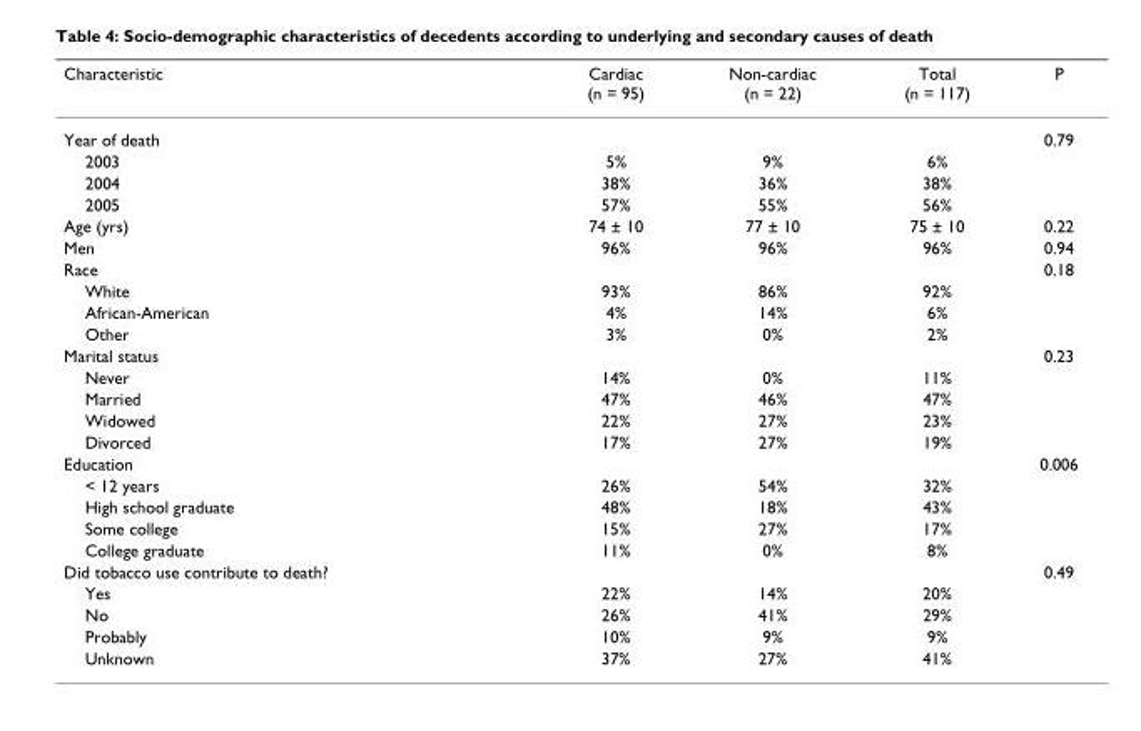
<table><thead><tr><td>Characteristic</td><td>Cardiac (n = 95)</td><td>Non-cardiac (n = 22)</td><td>Total (n = 117)</td><td>P</td></tr></thead><tbody><tr><td>Year of death</td><td></td><td></td><td></td><td>0.79</td></tr><tr><td>2003</td><td>5%</td><td>9%</td><td>6%</td><td></td></tr><tr><td>2004</td><td>38%</td><td>36%</td><td>38%</td><td></td></tr><tr><td>2005</td><td>57%</td><td>55%</td><td>56%</td><td></td></tr><tr><td>Age (yrs)</td><td>74 ± 10</td><td>77 ± 10</td><td>75 ± 10</td><td>0.22</td></tr><tr><td>Men</td><td>96%</td><td>96%</td><td>96%</td><td>0.94</td></tr><tr><td>Race</td><td></td><td></td><td></td><td>0.18</td></tr><tr><td>White</td><td>93%</td><td>86%</td><td>92%</td><td></td></tr><tr><td>African-American</td><td>4%</td><td>14%</td><td>6%</td><td></td></tr><tr><td>Other</td><td>3%</td><td>0%</td><td>2%</td><td></td></tr><tr><td>Marital status</td><td></td><td></td><td></td><td>0.23</td></tr><tr><td>Never</td><td>14%</td><td>0%</td><td>11%</td><td></td></tr><tr><td>Married</td><td>47%</td><td>46%</td><td>47%</td><td></td></tr><tr><td>Widowed</td><td>22%</td><td>27%</td><td>23%</td><td></td></tr><tr><td>Divorced</td><td>17%</td><td>27%</td><td>19%</td><td></td></tr><tr><td>Education</td><td></td><td></td><td></td><td>0.006</td></tr><tr><td>&lt; 12 years</td><td>26%</td><td>54%</td><td>32%</td><td></td></tr><tr><td>High school graduate</td><td>48%</td><td>18%</td><td>43%</td><td></td></tr><tr><td>Some college</td><td>15%</td><td>27%</td><td>17%</td><td></td></tr><tr><td>College graduate</td><td>11%</td><td>0%</td><td>8%</td><td></td></tr><tr><td>Did tobacco use contribute to death?</td><td></td><td></td><td></td><td>0.49</td></tr><tr><td>Yes</td><td>22%</td><td>14%</td><td>20%</td><td></td></tr><tr><td>No</td><td>26%</td><td>41%</td><td>29%</td><td></td></tr><tr><td>Probably</td><td>10%</td><td>9%</td><td>9%</td><td></td></tr><tr><td>Unknown</td><td>37%</td><td>27%</td><td>41%</td><td></td></tr></tbody></table>